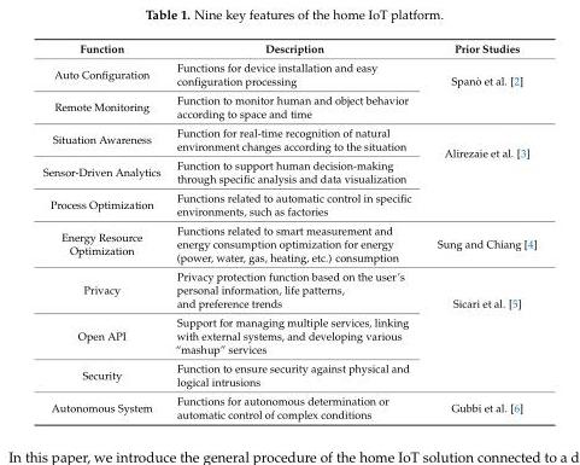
<table><thead><tr><td>Function</td><td>Description</td><td>Prior Studies</td></tr></thead><tbody><tr><td>Auto Configuration</td><td>Functions for device installation and easy configuration processing</td><td rowspan="2">Spanò et al. [2]</td></tr><tr><td>Remote Monitoring</td><td>Function to monitor human and object behavior according to space and time</td></tr><tr><td>Situation Awareness</td><td>Function for real-time recognition of natural environment changes according to the situation</td><td rowspan="3">Alirezaie et al. [3]</td></tr><tr><td>Sensor-Driven Analytics</td><td>Function to support human decision-making through specific analysis and data visualization</td></tr><tr><td>Process Optimization</td><td>Functions related to automatic control in specific environments, such as factories</td></tr><tr><td>Energy Resource Optimization</td><td>Functions related to smart measurement and energy consumption optimization for energy (power, water, gas, heating, etc.) consumption</td><td>Sung and Chiang [4]</td></tr><tr><td>Privacy</td><td>Privacy protection function based on the user’s personal information, life patterns, and preference trends</td><td rowspan="3">Sicari et al. [5]</td></tr><tr><td>Open API</td><td>Support for managing multiple services, linking with external systems, and developing various “mashup” services</td></tr><tr><td>Security</td><td>Function to ensure security against physical and logical intrusions</td></tr><tr><td>Autonomous System</td><td>Functions for autonomous determination or automatic control of complex conditions</td><td>Gubbi et al. [6]</td></tr></tbody></table>